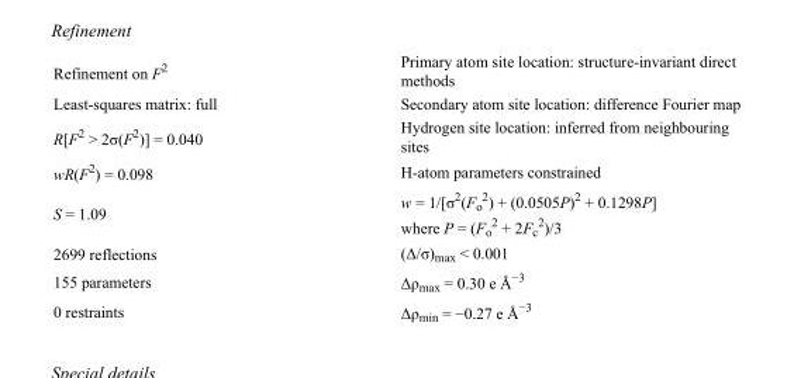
<table><tbody><tr><td>Refinement on F<sup>2</sup></td><td>Primary atom site location: structure-invariant direct methods</td></tr><tr><td>Least-squares matrix: full</td><td>Secondary atom site location: difference Fourier map</td></tr><tr><td>R[F<sup>2</sup> &gt; 2σ(F<sup>2</sup>)] = 0.040</td><td>Hydrogen site location: inferred from neighbouring sites</td></tr><tr><td>wR(F<sup>2</sup>) = 0.098</td><td>H-atom parameters constrained</td></tr><tr><td>S = 1.09</td><td>w = 1/[σ<sup>2</sup>(F<sub>o</sub> <sup>2</sup>) + (0.0505P)<sup>2</sup> + 0.1298P] where P = (F<sub>o</sub> <sup>2</sup> + 2F<sub>c</sub> <sup>2</sup>)/3</td></tr><tr><td>2699 reflections</td><td>(Δ/σ)<sub>max</sub> &lt; 0.001</td></tr><tr><td>155 parameters</td><td>Δρ<sub>max</sub> = 0.30 e Å<sup>−3</sup></td></tr><tr><td>0 restraints</td><td>Δρ<sub>min</sub> = −0.27 e Å<sup>−3</sup></td></tr></tbody></table>